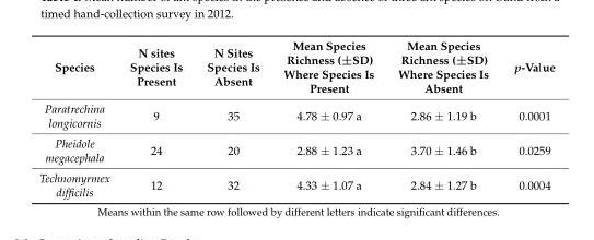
<table><thead><tr><td>Species</td><td>N sites Species Is Present</td><td>N Sites Species Is Absent</td><td>Mean Species Richness (±SD) Where Species Is Present</td><td>Mean Species Richness (±SD) Where Species Is Absent</td><td>p-Value</td></tr></thead><tbody><tr><td>Paratrechina longicornis</td><td>9</td><td>35</td><td>4.78 ± 0.97 a</td><td>2.86 ± 1.19 b</td><td>0.0001</td></tr><tr><td>Pheidole megacephala</td><td>24</td><td>20</td><td>2.88 ± 1.23 a</td><td>3.70 ± 1.46 b</td><td>0.0259</td></tr><tr><td>Technomyrmex difficilis</td><td>12</td><td>32</td><td>4.33 ± 1.07 a</td><td>2.84 ± 1.27 b</td><td>0.0004</td></tr></tbody></table>